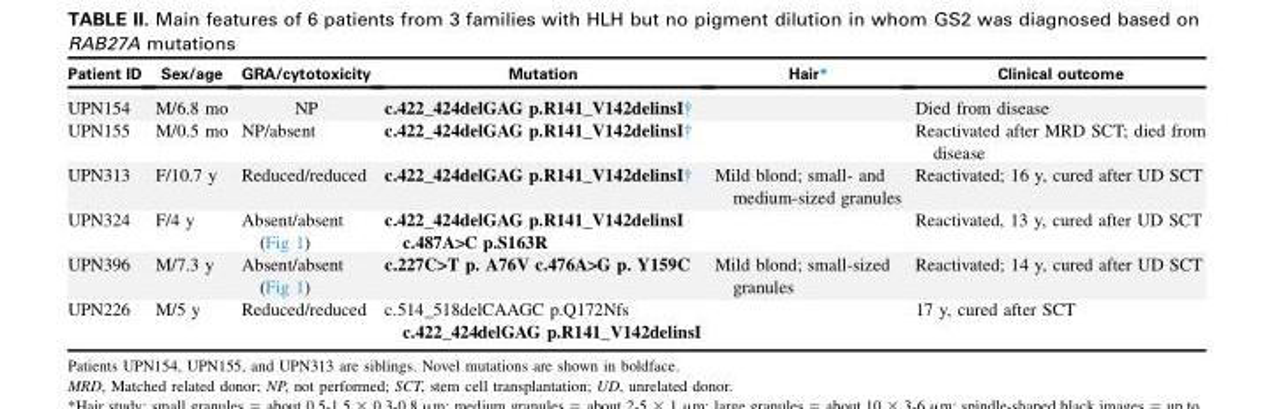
<table><thead><tr><td>Patient ID</td><td>Sex/age</td><td>GRA/cytotoxicity</td><td>Mutation</td><td>Hair*</td><td>Clinical outcome</td></tr></thead><tbody><tr><td>UPN154</td><td>M/6.8 mo</td><td>NP</td><td>c.422_424delGAG p.R141_V142delinsI†</td><td></td><td>Died from disease</td></tr><tr><td>UPN155</td><td>M/0.5 mo</td><td>NP/absent</td><td>c.422_424delGAG p.R141_V142delinsI†</td><td></td><td>Reactivated after MRD SCT; died from disease</td></tr><tr><td>UPN313</td><td>F/10.7 y</td><td>Reduced/reduced</td><td>c.422_424delGAG p.R141_V142delinsI†</td><td>Mild blond; small- and medium-sized granules</td><td>Reactivated; 16 y, cured after UD SCT</td></tr><tr><td>UPN324</td><td>F/4 y</td><td>Absent/absent (Fig 1)</td><td>c.422_424delGAG p.R141_V142delinsI c.487A&gt;C p.S163R</td><td></td><td>Reactivated, 13 y, cured after UD SCT</td></tr><tr><td>UPN396</td><td>M/7.3 y</td><td>Absent/absent (Fig 1)</td><td>c.227C&gt;T p. A76V c.476A&gt;G p. Y159C</td><td>Mild blond; small-sized granules</td><td>Reactivated; 14 y, cured after UD SCT</td></tr><tr><td>UPN226</td><td>M/5 y</td><td>Reduced/reduced</td><td>c.514_518delCAAGC p.Q172Nfs c.422_424delGAG p.R141_V142delinsI</td><td></td><td>17 y, cured after SCT</td></tr></tbody></table>